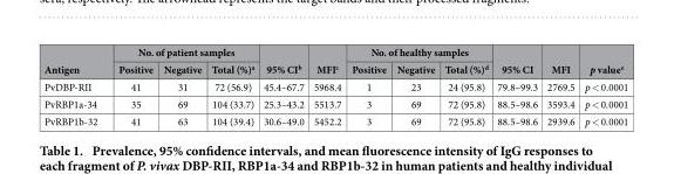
<table><thead><tr><td rowspan="2">Antigen</td><td colspan="3">No. of patient samples</td><td rowspan="2">95% CI<sup>b</sup></td><td rowspan="2">MFI<sup>c</sup></td><td colspan="3">No. of healthy samples</td><td rowspan="2">95% CI</td><td rowspan="2">MFI</td><td rowspan="2">p value<sup>e</sup></td></tr><tr><td>Positive</td><td>Negative</td><td>Total (%)<sup>a</sup></td><td>Positive</td><td>Negative</td><td>Total (%)<sup>d</sup></td></tr></thead><tbody><tr><td>PvDBP-RII</td><td>41</td><td>31</td><td>72 (56.9)</td><td>45.4–67.7</td><td>5968.4</td><td>1</td><td>23</td><td>24 (95.8)</td><td>79.8–99.3</td><td>2769.5</td><td>p &lt; 0.0001</td></tr><tr><td>PvRBP1a-34</td><td>35</td><td>69</td><td>104 (33.7)</td><td>25.3–43.2</td><td>5513.7</td><td>3</td><td>69</td><td>72 (95.8)</td><td>88.5–98.6</td><td>3593.4</td><td>p &lt; 0.0001</td></tr><tr><td>PvRBP1b-32</td><td>41</td><td>63</td><td>104 (39.4)</td><td>30.6–49.0</td><td>5452.2</td><td>3</td><td>69</td><td>72 (95.8)</td><td>88.5–98.6</td><td>2939.6</td><td>p &lt; 0.0001</td></tr></tbody></table>